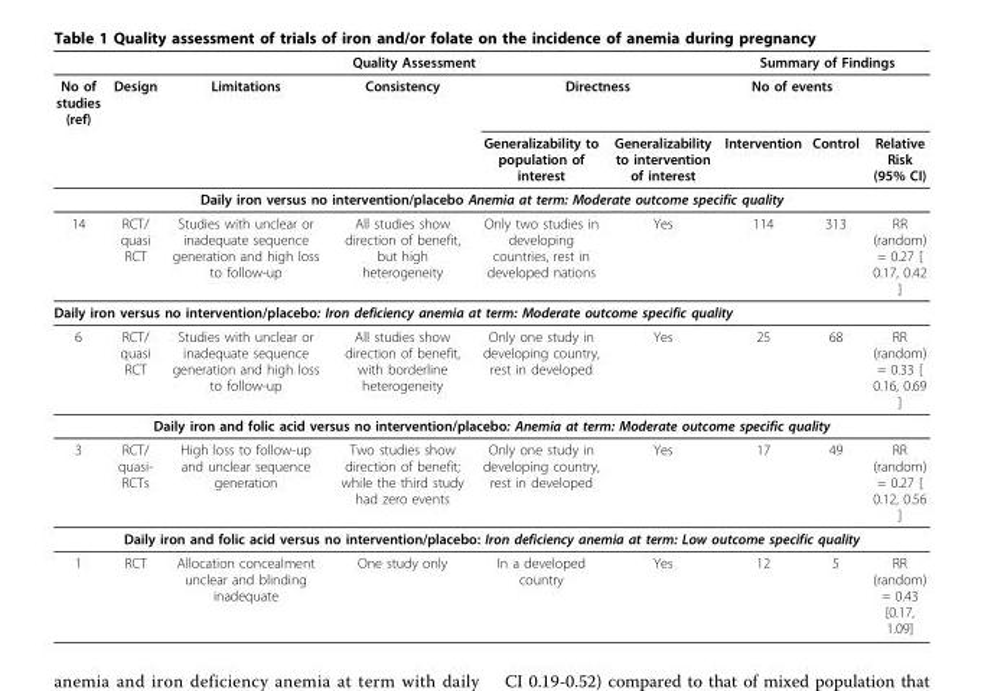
<table><thead><tr><td rowspan="3">No of studies (ref)</td><td colspan="5">Quality Assessment</td><td colspan="3">Summary of Findings</td></tr><tr><td rowspan="2">Design</td><td rowspan="2">Limitations</td><td rowspan="2">Consistency</td><td colspan="2">Directness</td><td colspan="2">No of events</td><td rowspan="2">Relative Risk (95% CI)</td></tr><tr><td>Generalizability to population of interest</td><td>Generalizability to intervention of interest</td><td>Intervention</td><td>Control</td></tr></thead><tbody><tr><td colspan="9">Daily iron versus no intervention/placebo Anemia at term: Moderate outcome specific quality</td></tr><tr><td>14</td><td>RCT/ quasi RCT</td><td>Studies with unclear or inadequate sequence generation and high loss to follow-up</td><td>All studies show direction of benefit, but high heterogeneity</td><td>Only two studies in developing countries, rest in developed nations</td><td>Yes</td><td>114</td><td>313</td><td>RR (random) = 0.27 [ 0.17, 0.42 ]</td></tr><tr><td colspan="9">Daily iron versus no intervention/placebo: Iron deficiency anemia at term: Moderate outcome specific quality</td></tr><tr><td>6</td><td>RCT/ quasi RCT</td><td>Studies with unclear or inadequate sequence generation and high loss to follow-up</td><td>All studies show direction of benefit, with borderline heterogeneity</td><td>Only one study in developing country, rest in developed</td><td>Yes</td><td>25</td><td>68</td><td>RR (random) = 0.33 [ 0.16, 0.69 ]</td></tr><tr><td colspan="9">Daily iron and folic acid versus no intervention/placebo: Anemia at term: Moderate outcome specific quality</td></tr><tr><td>3</td><td>RCT/ quasi- RCTs</td><td>High loss to follow-up and unclear sequence generation</td><td>Two studies show direction of benefit; while the third study had zero events</td><td>Only one study in developing country, rest in developed</td><td>Yes</td><td>17</td><td>49</td><td>RR (random) = 0.27 [ 0.12, 0.56 ]</td></tr><tr><td colspan="9">Daily iron and folic acid versus no intervention/placebo: Iron deficiency anemia at term: Low outcome specific quality</td></tr><tr><td>1</td><td>RCT</td><td>Allocation concealment unclear and blinding inadequate</td><td>One study only</td><td>In a developed country</td><td>Yes</td><td>12</td><td>5</td><td>RR (random) = 0.43 [0.17, 1.09]</td></tr></tbody></table>